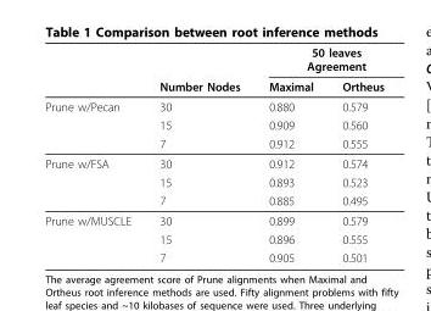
<table><thead><tr><td rowspan="2"></td><td rowspan="2">Number Nodes</td><td colspan="2">50 leaves Agreement</td></tr><tr><td>Maximal</td><td>Ortheus</td></tr></thead><tbody><tr><td rowspan="3">Prune w/Pecan</td><td>30</td><td>0.880</td><td>0.579</td></tr><tr><td>15</td><td>0.909</td><td>0.560</td></tr><tr><td>7</td><td>0.912</td><td>0.555</td></tr><tr><td rowspan="3">Prune w/FSA</td><td>30</td><td>0.912</td><td>0.574</td></tr><tr><td>15</td><td>0.893</td><td>0.523</td></tr><tr><td>7</td><td>0.885</td><td>0.495</td></tr><tr><td rowspan="3">Prune w/MUSCLE</td><td>30</td><td>0.899</td><td>0.579</td></tr><tr><td>15</td><td>0.896</td><td>0.555</td></tr><tr><td>7</td><td>0.905</td><td>0.501</td></tr></tbody></table>